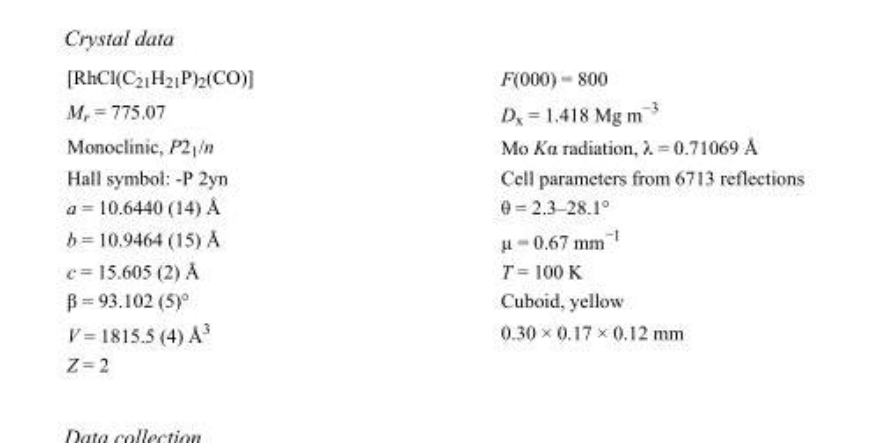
<table><tbody><tr><td>[RhCl(C<sub>21</sub>H<sub>21</sub>P)<sub>2</sub>(CO)]</td><td>F(000) = 800</td></tr><tr><td>M<sub>r</sub> = 775.07</td><td>D<sub>x</sub> = 1.418 Mg m<sup>−3</sup></td></tr><tr><td>Monoclinic, P2<sub>1</sub>/n</td><td>Mo Kα radiation, λ = 0.71069 Å</td></tr><tr><td>Hall symbol: -P 2yn</td><td>Cell parameters from 6713 reflections</td></tr><tr><td>a = 10.6440 (14) Å</td><td>θ = 2.3–28.1°</td></tr><tr><td>b = 10.9464 (15) Å</td><td>µ = 0.67 mm<sup>−1</sup></td></tr><tr><td>c = 15.605 (2) Å</td><td>T = 100 K</td></tr><tr><td>β = 93.102 (5)°</td><td>Cuboid, yellow</td></tr><tr><td>V = 1815.5 (4) Å<sup>3</sup></td><td>0.30 × 0.17 × 0.12 mm</td></tr><tr><td>Z = 2</td><td></td></tr></tbody></table>